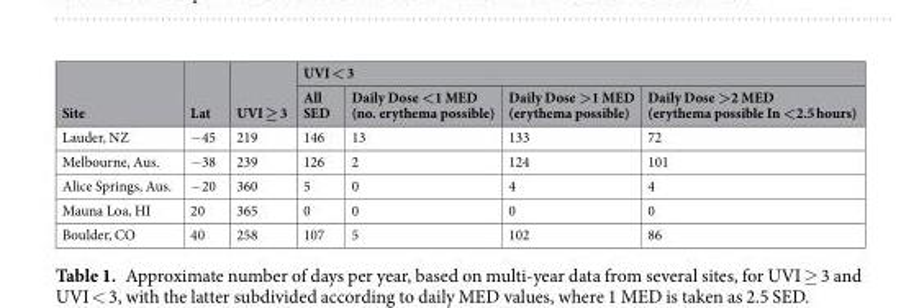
<table><thead><tr><td rowspan="2">Site</td><td rowspan="2">Lat</td><td rowspan="2">UVI ≥ 3</td><td colspan="4">UVI &lt; 3</td></tr><tr><td>All SED</td><td>Daily Dose &lt;1 MED (no. erythema possible)</td><td>Daily Dose &gt;1 MED (erythema possible)</td><td>Daily Dose &gt;2 MED (erythema possible In &lt;2.5 hours)</td></tr></thead><tbody><tr><td>Lauder, NZ</td><td>−45</td><td>219</td><td>146</td><td>13</td><td>133</td><td>72</td></tr><tr><td>Melbourne, Aus.</td><td>−38</td><td>239</td><td>126</td><td>2</td><td>124</td><td>101</td></tr><tr><td>Alice Springs, Aus.</td><td>−20</td><td>360</td><td>5</td><td>0</td><td>4</td><td>4</td></tr><tr><td>Mauna Loa, HI</td><td>20</td><td>365</td><td>0</td><td>0</td><td>0</td><td>0</td></tr><tr><td>Boulder, CO</td><td>40</td><td>258</td><td>107</td><td>5</td><td>102</td><td>86</td></tr></tbody></table>